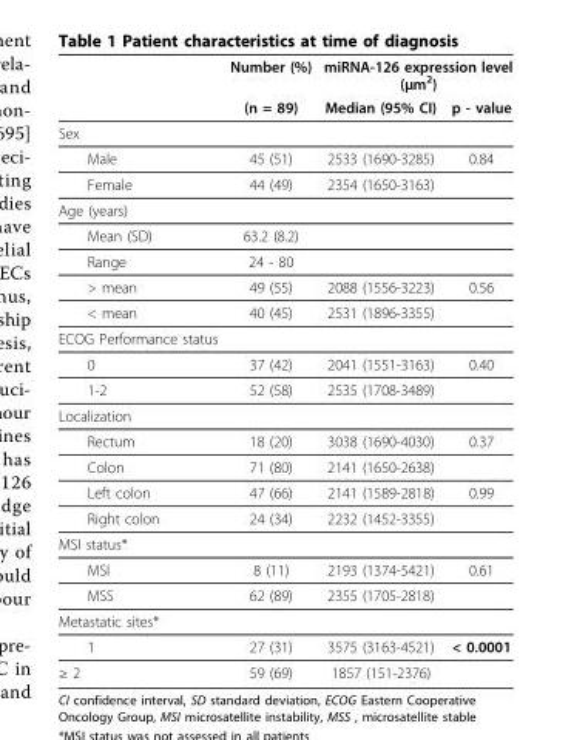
<table><thead><tr><td rowspan="2"></td><td rowspan="2">Number (%) (n = 89)</td><td colspan="2">miRNA-126 expression level (μm<sup>2</sup>)</td></tr><tr><td>Median (95% CI)</td><td>p - value</td></tr></thead><tbody><tr><td colspan="4">Sex</td></tr><tr><td>Male</td><td>45 (51)</td><td>2533 (1690-3285)</td><td>0.84</td></tr><tr><td>Female</td><td>44 (49)</td><td>2354 (1650-3163)</td><td></td></tr><tr><td colspan="4">Age (years)</td></tr><tr><td>Mean (SD)</td><td>63.2 (8.2)</td><td></td><td></td></tr><tr><td>Range</td><td>24 - 80</td><td></td><td></td></tr><tr><td>&gt; mean</td><td>49 (55)</td><td>2088 (1556-3223)</td><td>0.56</td></tr><tr><td>&lt; mean</td><td>40 (45)</td><td>2531 (1896-3355)</td><td></td></tr><tr><td colspan="4">ECOG Performance status</td></tr><tr><td>0</td><td>37 (42)</td><td>2041 (1551-3163)</td><td>0.40</td></tr><tr><td>1-2</td><td>52 (58)</td><td>2535 (1708-3489)</td><td></td></tr><tr><td colspan="4">Localization</td></tr><tr><td>Rectum</td><td>18 (20)</td><td>3038 (1690-4030)</td><td>0.37</td></tr><tr><td>Colon</td><td>71 (80)</td><td>2141 (1650-2638)</td><td></td></tr><tr><td>Left colon</td><td>47 (66)</td><td>2141 (1589-2818)</td><td>0.99</td></tr><tr><td>Right colon</td><td>24 (34)</td><td>2232 (1452-3355)</td><td></td></tr><tr><td colspan="4">MSI status*</td></tr><tr><td>MSI</td><td>8 (11)</td><td>2193 (1374-5421)</td><td>0.61</td></tr><tr><td>MSS</td><td>62 (89)</td><td>2355 (1705-2818)</td><td></td></tr><tr><td colspan="4">Metastatic sites*</td></tr><tr><td>1</td><td>27 (31)</td><td>3575 (3163-4521)</td><td>&lt; 0.0001</td></tr><tr><td>≥ 2</td><td>59 (69)</td><td>1857 (151-2376)</td><td></td></tr></tbody></table>